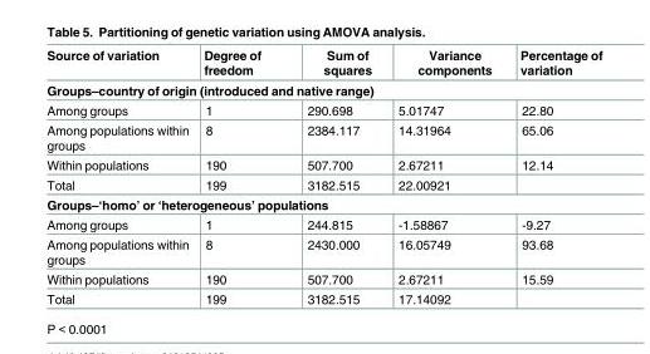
<table><thead><tr><td>Source of variation</td><td>Degree of freedom</td><td>Sum of squares</td><td>Variance components</td><td>Percentage of variation</td></tr></thead><tbody><tr><td colspan="5">Groups–country of origin (introduced and native range)</td></tr><tr><td>Among groups</td><td>1</td><td>290.698</td><td>5.01747</td><td>22.80</td></tr><tr><td>Among populations within groups</td><td>8</td><td>2384.117</td><td>14.31964</td><td>65.06</td></tr><tr><td>Within populations</td><td>190</td><td>507.700</td><td>2.67211</td><td>12.14</td></tr><tr><td>Total</td><td>199</td><td>3182.515</td><td>22.00921</td><td></td></tr><tr><td colspan="5">Groups–‘homo’ or ‘heterogeneous’ populations</td></tr><tr><td>Among groups</td><td>1</td><td>244.815</td><td>-1.58867</td><td>-9.27</td></tr><tr><td>Among populations within groups</td><td>8</td><td>2430.000</td><td>16.05749</td><td>93.68</td></tr><tr><td>Within populations</td><td>190</td><td>507.700</td><td>2.67211</td><td>15.59</td></tr><tr><td>Total</td><td>199</td><td>3182.515</td><td>17.14092</td><td></td></tr></tbody></table>